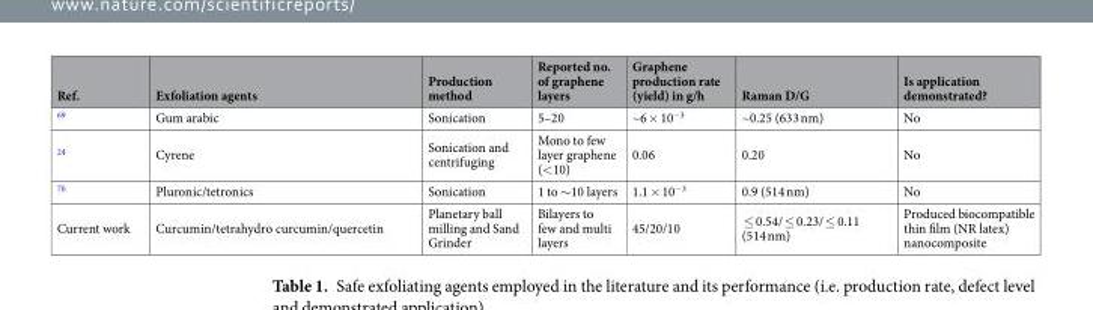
<table><thead><tr><td>Ref.</td><td>Exfoliation agents</td><td>Production method</td><td>Reported no. of graphene layers</td><td>Graphene production rate (yield) in g/h</td><td>Raman D/G</td><td>Is application demonstrated?</td></tr></thead><tbody><tr><td><sup>69</sup></td><td>Gum arabic</td><td>Sonication</td><td>5–20</td><td>~6 × 10<sup>−3</sup></td><td>~0.25 (633 nm)</td><td>No</td></tr><tr><td><sup>24</sup></td><td>Cyrene</td><td>Sonication and centrifuging</td><td>Mono to few layer graphene (&lt;10)</td><td>0.06</td><td>0.20</td><td>No</td></tr><tr><td><sup>70</sup></td><td>Pluronic/tetronics</td><td>Sonication</td><td>1 to ∼10 layers</td><td>1.1 × 10<sup>−3</sup></td><td>0.9 (514 nm)</td><td>No</td></tr><tr><td>Current work</td><td>Curcumin/tetrahydro curcumin/quercetin</td><td>Planetary ball milling and Sand Grinder</td><td>Bilayers to few and multi layers</td><td>45/20/10</td><td>≤ 0.54/ ≤ 0.23/ ≤ 0.11 (514 nm)</td><td>Produced biocompatible thin film (NR latex) nanocomposite</td></tr></tbody></table>